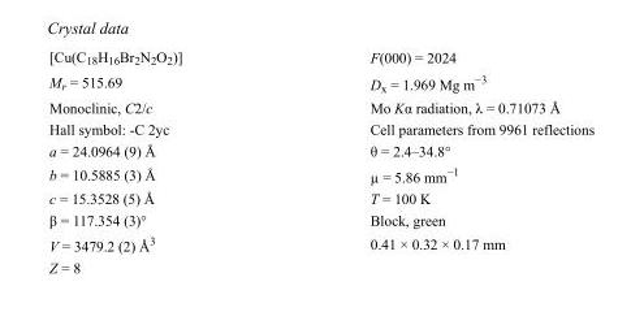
<table><tbody><tr><td>[Cu(C<sub>18</sub>H<sub>16</sub>Br<sub>2</sub>N<sub>2</sub>O<sub>2</sub>)]</td><td>F(000) = 2024</td></tr><tr><td>M<sub>r</sub> = 515.69</td><td>D<sub>x</sub> = 1.969 Mg m<sup>−3</sup></td></tr><tr><td>Monoclinic, C2/c</td><td>Mo Kα radiation, λ = 0.71073 Å</td></tr><tr><td>Hall symbol: -C 2yc</td><td>Cell parameters from 9961 reflections</td></tr><tr><td>a = 24.0964 (9) Å</td><td>θ = 2.4–34.8°</td></tr><tr><td>b = 10.5885 (3) Å</td><td>µ = 5.86 mm<sup>−1</sup></td></tr><tr><td>c = 15.3528 (5) Å</td><td>T = 100 K</td></tr><tr><td>β = 117.354 (3)°</td><td>Block, green</td></tr><tr><td>V = 3479.2 (2) Å<sup>3</sup></td><td>0.41 × 0.32 × 0.17 mm</td></tr><tr><td>Z = 8</td><td></td></tr></tbody></table>